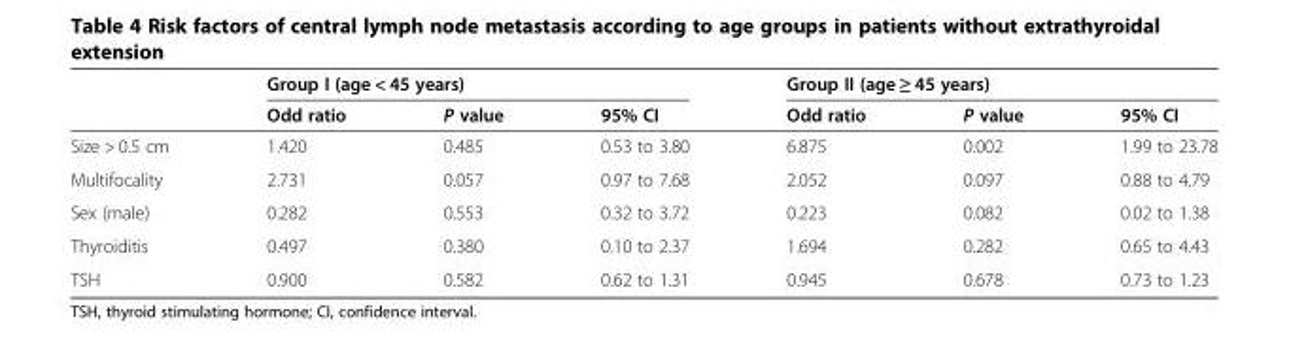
<table><thead><tr><td rowspan="2"></td><td colspan="3">Group I (age &lt; 45 years)</td><td colspan="3">Group II (age ≥ 45 years)</td></tr><tr><td>Odd ratio</td><td>P value</td><td>95% CI</td><td>Odd ratio</td><td>P value</td><td>95% CI</td></tr></thead><tbody><tr><td>Size &gt; 0.5 cm</td><td>1.420</td><td>0.485</td><td>0.53 to 3.80</td><td>6.875</td><td>0.002</td><td>1.99 to 23.78</td></tr><tr><td>Multifocality</td><td>2.731</td><td>0.057</td><td>0.97 to 7.68</td><td>2.052</td><td>0.097</td><td>0.88 to 4.79</td></tr><tr><td>Sex (male)</td><td>0.282</td><td>0.553</td><td>0.32 to 3.72</td><td>0.223</td><td>0.082</td><td>0.02 to 1.38</td></tr><tr><td>Thyroiditis</td><td>0.497</td><td>0.380</td><td>0.10 to 2.37</td><td>1.694</td><td>0.282</td><td>0.65 to 4.43</td></tr><tr><td>TSH</td><td>0.900</td><td>0.582</td><td>0.62 to 1.31</td><td>0.945</td><td>0.678</td><td>0.73 to 1.23</td></tr></tbody></table>